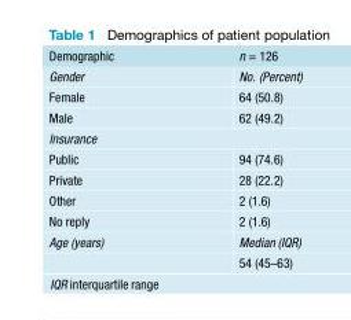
<table><thead><tr><td>Demographic</td><td>n = 126</td></tr></thead><tbody><tr><td>Gender</td><td>No. (Percent)</td></tr><tr><td>Female</td><td>64 (50.8)</td></tr><tr><td>Male</td><td>62 (49.2)</td></tr><tr><td colspan="2">Insurance</td></tr><tr><td>Public</td><td>94 (74.6)</td></tr><tr><td>Private</td><td>28 (22.2)</td></tr><tr><td>Other</td><td>2 (1.6)</td></tr><tr><td>No reply</td><td>2 (1.6)</td></tr><tr><td rowspan="2">Age (years)</td><td>Median (IQR)</td></tr><tr><td>54 (45–63)</td></tr></tbody></table>